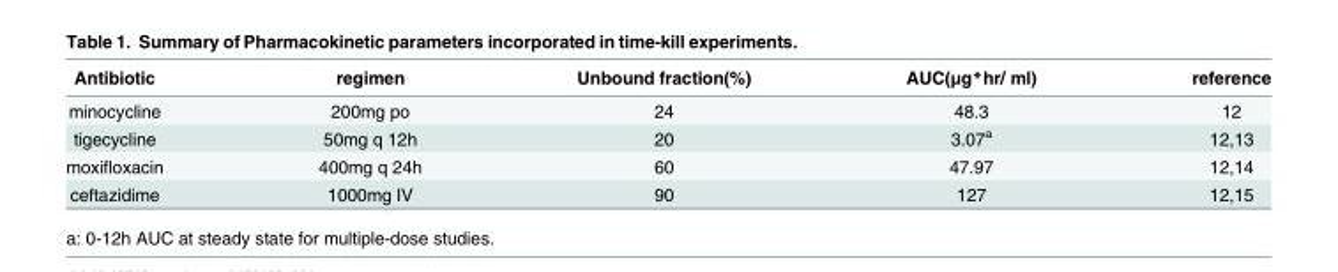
<table><thead><tr><td>Antibiotic</td><td>regimen</td><td>Unbound fraction(%)</td><td>AUC(μg*hr/ ml)</td><td>reference</td></tr></thead><tbody><tr><td>minocycline</td><td>200mg po</td><td>24</td><td>48.3</td><td>12</td></tr><tr><td>tigecycline</td><td>50mg q 12h</td><td>20</td><td>3.07<sup>a</sup></td><td>12,13</td></tr><tr><td>moxifloxacin</td><td>400mg q 24h</td><td>60</td><td>47.97</td><td>12,14</td></tr><tr><td>ceftazidime</td><td>1000mg IV</td><td>90</td><td>127</td><td>12,15</td></tr></tbody></table>